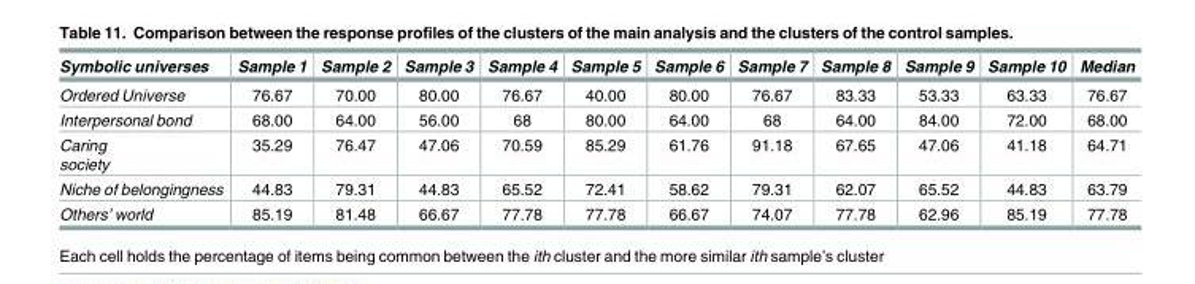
<table><thead><tr><td>Symbolic universes</td><td>Sample 1</td><td>Sample 2</td><td>Sample 3</td><td>Sample 4</td><td>Sample 5</td><td>Sample 6</td><td>Sample 7</td><td>Sample 8</td><td>Sample 9</td><td>Sample 10</td><td>Median</td></tr></thead><tbody><tr><td>Ordered Universe</td><td>76.67</td><td>70.00</td><td>80.00</td><td>76.67</td><td>40.00</td><td>80.00</td><td>76.67</td><td>83.33</td><td>53.33</td><td>63.33</td><td>76.67</td></tr><tr><td>Interpersonal bond</td><td>68.00</td><td>64.00</td><td>56.00</td><td>68</td><td>80.00</td><td>64.00</td><td>68</td><td>64.00</td><td>84.00</td><td>72.00</td><td>68.00</td></tr><tr><td>Caring society</td><td>35.29</td><td>76.47</td><td>47.06</td><td>70.59</td><td>85.29</td><td>61.76</td><td>91.18</td><td>67.65</td><td>47.06</td><td>41.18</td><td>64.71</td></tr><tr><td>Niche of belongingness</td><td>44.83</td><td>79.31</td><td>44.83</td><td>65.52</td><td>72.41</td><td>58.62</td><td>79.31</td><td>62.07</td><td>65.52</td><td>44.83</td><td>63.79</td></tr><tr><td>Others’ world</td><td>85.19</td><td>81.48</td><td>66.67</td><td>77.78</td><td>77.78</td><td>66.67</td><td>74.07</td><td>77.78</td><td>62.96</td><td>85.19</td><td>77.78</td></tr></tbody></table>